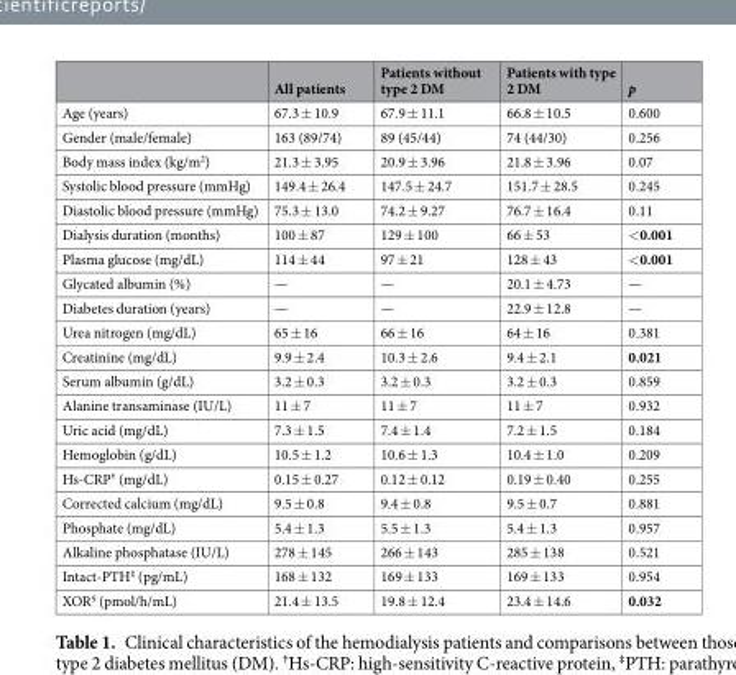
<table><thead><tr><td></td><td>All patients</td><td>Patients without type 2 DM</td><td>Patients with type 2 DM</td><td>p</td></tr></thead><tbody><tr><td>Age (years)</td><td>67.3 ± 10.9</td><td>67.9 ± 11.1</td><td>66.8 ± 10.5</td><td>0.600</td></tr><tr><td>Gender (male/female)</td><td>163 (89/74)</td><td>89 (45/44)</td><td>74 (44/30)</td><td>0.256</td></tr><tr><td>Body mass index (kg/m<sup>2</sup>)</td><td>21.3 ± 3.95</td><td>20.9 ± 3.96</td><td>21.8 ± 3.96</td><td>0.07</td></tr><tr><td>Systolic blood pressure (mmHg)</td><td>149.4 ± 26.4</td><td>147.5 ± 24.7</td><td>151.7 ± 28.5</td><td>0.245</td></tr><tr><td>Diastolic blood pressure (mmHg)</td><td>75.3 ± 13.0</td><td>74.2 ± 9.27</td><td>76.7 ± 16.4</td><td>0.11</td></tr><tr><td>Dialysis duration (months)</td><td>100 ± 87</td><td>129 ± 100</td><td>66 ± 53</td><td>&lt;0.001</td></tr><tr><td>Plasma glucose (mg/dL)</td><td>114 ± 44</td><td>97 ± 21</td><td>128 ± 43</td><td>&lt;0.001</td></tr><tr><td>Glycated albumin (%)</td><td>—</td><td>—</td><td>20.1 ± 4.73</td><td>—</td></tr><tr><td>Diabetes duration (years)</td><td>—</td><td>—</td><td>22.9 ± 12.8</td><td>—</td></tr><tr><td>Urea nitrogen (mg/dL)</td><td>65 ± 16</td><td>66 ± 16</td><td>64 ± 16</td><td>0.381</td></tr><tr><td>Creatinine (mg/dL)</td><td>9.9 ± 2.4</td><td>10.3 ± 2.6</td><td>9.4 ± 2.1</td><td>0.021</td></tr><tr><td>Serum albumin (g/dL)</td><td>3.2 ± 0.3</td><td>3.2 ± 0.3</td><td>3.2 ± 0.3</td><td>0.859</td></tr><tr><td>Alanine transaminase (IU/L)</td><td>11 ± 7</td><td>11 ± 7</td><td>11 ± 7</td><td>0.932</td></tr><tr><td>Uric acid (mg/dL)</td><td>7.3 ± 1.5</td><td>7.4 ± 1.4</td><td>7.2 ± 1.5</td><td>0.184</td></tr><tr><td>Hemoglobin (g/dL)</td><td>10.5 ± 1.2</td><td>10.6 ± 1.3</td><td>10.4 ± 1.0</td><td>0.209</td></tr><tr><td>Hs-CRP<sup>†</sup> (mg/dL)</td><td>0.15 ± 0.27</td><td>0.12 ± 0.12</td><td>0.19 ± 0.40</td><td>0.255</td></tr><tr><td>Corrected calcium (mg/dL)</td><td>9.5 ± 0.8</td><td>9.4 ± 0.8</td><td>9.5 ± 0.7</td><td>0.881</td></tr><tr><td>Phosphate (mg/dL)</td><td>5.4 ± 1.3</td><td>5.5 ± 1.3</td><td>5.4 ± 1.3</td><td>0.957</td></tr><tr><td>Alkaline phosphatase (IU/L)</td><td>278 ± 145</td><td>266 ± 143</td><td>285 ± 138</td><td>0.521</td></tr><tr><td>Intact-PTH<sup>‡</sup> (pg/mL)</td><td>168 ± 132</td><td>169 ± 133</td><td>169 ± 133</td><td>0.954</td></tr><tr><td>XOR<sup>§</sup> (pmol/h/mL)</td><td>21.4 ± 13.5</td><td>19.8 ± 12.4</td><td>23.4 ± 14.6</td><td>0.032</td></tr></tbody></table>